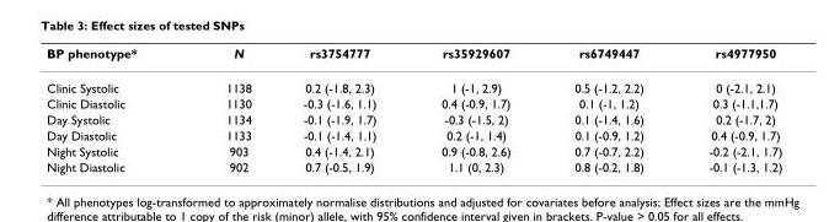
<table><thead><tr><td>BP phenotype*</td><td>N</td><td>rs3754777</td><td>rs35929607</td><td>rs6749447</td><td>rs4977950</td></tr></thead><tbody><tr><td>Clinic Systolic</td><td>1138</td><td>0.2 (-1.8, 2.3)</td><td>1 (-1, 2.9)</td><td>0.5 (-1.2, 2.2)</td><td>0 (-2.1, 2.1)</td></tr><tr><td>Clinic Diastolic</td><td>1130</td><td>-0.3 (-1.6, 1.1)</td><td>0.4 (-0.9, 1.7)</td><td>0.1 (-1, 1.2)</td><td>0.3 (-1.1,1.7)</td></tr><tr><td>Day Systolic</td><td>1134</td><td>-0.1 (-1.9, 1.7)</td><td>-0.3 (-1.5, 2)</td><td>0.1 (-1.4, 1.6)</td><td>0.2 (-1.7, 2)</td></tr><tr><td>Day Diastolic</td><td>1133</td><td>-0.1 (-1.4, 1.1)</td><td>0.2 (-1, 1.4)</td><td>0.1 (-0.9, 1.2)</td><td>0.4 (-0.9, 1.7)</td></tr><tr><td>Night Systolic</td><td>903</td><td>0.4 (-1.4, 2.1)</td><td>0.9 (-0.8, 2.6)</td><td>0.7 (-0.7, 2.2)</td><td>-0.2 (-2.1, 1.7)</td></tr><tr><td>Night Diastolic</td><td>902</td><td>0.7 (-0.5, 1.9)</td><td>1.1 (0, 2.3)</td><td>0.8 (-0.2, 1.8)</td><td>-0.1 (-1.3, 1.2)</td></tr></tbody></table>